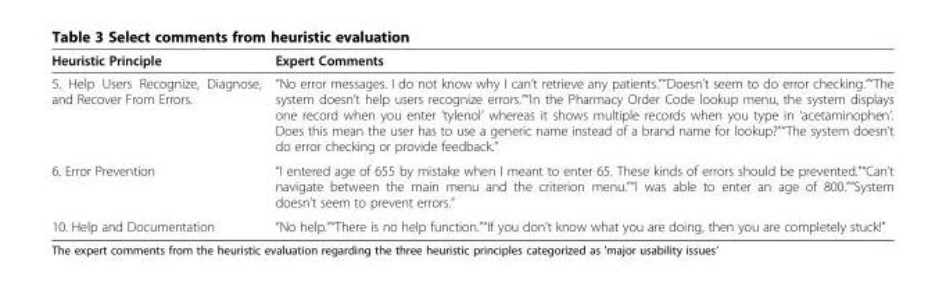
<table><thead><tr><td>Heuristic Principle</td><td>Expert Comments</td></tr></thead><tbody><tr><td>5. Help Users Recognize, Diagnose, and Recover From Errors.</td><td>“No error messages. I do not know why I can’t retrieve any patients.”“Doesn’t seem to do error checking.”“The system doesn’t help users recognize errors.”“In the Pharmacy Order Code lookup menu, the system displays one record when you enter ‘tylenol’ whereas it shows multiple records when you type in ‘acetaminophen’. Does this mean the user has to use a generic name instead of a brand name for lookup?”“The system doesn’t do error checking or provide feedback.”</td></tr><tr><td>6. Error Prevention</td><td>“I entered age of 655 by mistake when I meant to enter 65. These kinds of errors should be prevented.”“Can’t navigate between the main menu and the criterion menu.”“I was able to enter an age of 800.”“System doesn’t seem to prevent errors.”</td></tr><tr><td>10. Help and Documentation</td><td>“No help.”“There is no help function.”“If you don’t know what you are doing, then you are completely stuck!”</td></tr></tbody></table>